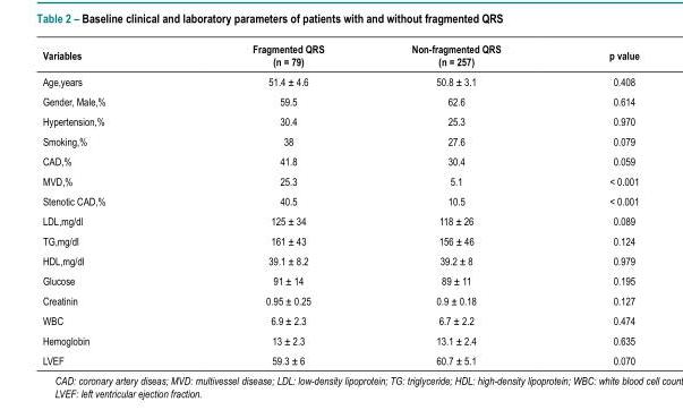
<table><thead><tr><td>Variables</td><td>Fragmented QRS (n = 79)</td><td>Non-fragmented QRS (n = 257)</td><td>p value</td></tr></thead><tbody><tr><td>Age,years</td><td>51.4 ± 4.6</td><td>50.8 ± 3.1</td><td>0.408</td></tr><tr><td>Gender, Male,%</td><td>59.5</td><td>62.6</td><td>0.614</td></tr><tr><td>Hypertension,%</td><td>30.4</td><td>25.3</td><td>0.970</td></tr><tr><td>Smoking,%</td><td>38</td><td>27.6</td><td>0.079</td></tr><tr><td>CAD,%</td><td>41.8</td><td>30.4</td><td>0.059</td></tr><tr><td>MVD,%</td><td>25.3</td><td>5.1</td><td>&lt; 0.001</td></tr><tr><td>Stenotic CAD,%</td><td>40.5</td><td>10.5</td><td>&lt; 0.001</td></tr><tr><td>LDL,mg/dl</td><td>125 ± 34</td><td>118 ± 26</td><td>0.089</td></tr><tr><td>TG,mg/dl</td><td>161 ± 43</td><td>156 ± 46</td><td>0.124</td></tr><tr><td>HDL,mg/dl</td><td>39.1 ± 8.2</td><td>39.2 ± 8</td><td>0.979</td></tr><tr><td>Glucose</td><td>91 ± 14</td><td>89 ± 11</td><td>0.195</td></tr><tr><td>Creatinin</td><td>0.95 ± 0.25</td><td>0.9 ± 0.18</td><td>0.127</td></tr><tr><td>WBC</td><td>6.9 ± 2.3</td><td>6.7 ± 2.2</td><td>0.474</td></tr><tr><td>Hemoglobin</td><td>13 ± 2.3</td><td>13.1 ± 2.4</td><td>0.635</td></tr><tr><td>LVEF</td><td>59.3 ± 6</td><td>60.7 ± 5.1</td><td>0.070</td></tr></tbody></table>